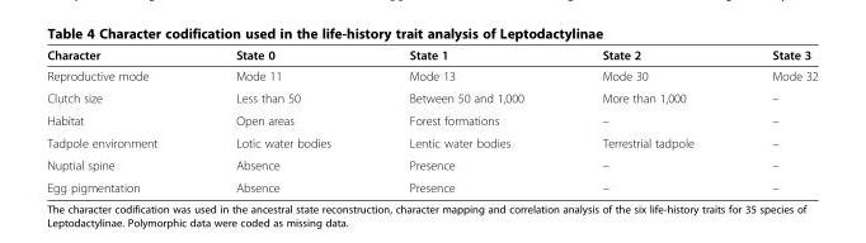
<table><thead><tr><td>Character</td><td>State 0</td><td>State 1</td><td>State 2</td><td>State 3</td></tr></thead><tbody><tr><td>Reproductive mode</td><td>Mode 11</td><td>Mode 13</td><td>Mode 30</td><td>Mode 32</td></tr><tr><td>Clutch size</td><td>Less than 50</td><td>Between 50 and 1,000</td><td>More than 1,000</td><td>–</td></tr><tr><td>Habitat</td><td>Open areas</td><td>Forest formations</td><td>–</td><td>–</td></tr><tr><td>Tadpole environment</td><td>Lotic water bodies</td><td>Lentic water bodies</td><td>Terrestrial tadpole</td><td>–</td></tr><tr><td>Nuptial spine</td><td>Absence</td><td>Presence</td><td>–</td><td>–</td></tr><tr><td>Egg pigmentation</td><td>Absence</td><td>Presence</td><td>–</td><td>–</td></tr></tbody></table>